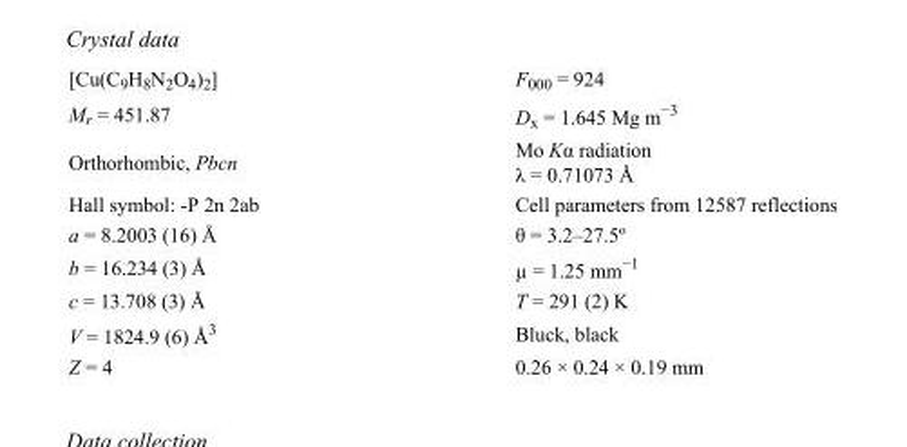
<table><tbody><tr><td>[Cu(C<sub>9</sub>H<sub>8</sub>N<sub>2</sub>O<sub>4</sub>)<sub>2</sub>]</td><td>F<sub>000</sub> = 924</td></tr><tr><td>M<sub>r</sub> = 451.87</td><td>D<sub>x</sub> = 1.645 Mg m<sup>−3</sup></td></tr><tr><td>Orthorhombic, Pbcn</td><td>Mo Kα radiation λ = 0.71073 Å</td></tr><tr><td>Hall symbol: -P 2n 2ab</td><td>Cell parameters from 12587 reflections</td></tr><tr><td>a = 8.2003 (16) Å</td><td>θ = 3.2–27.5º</td></tr><tr><td>b = 16.234 (3) Å</td><td>µ = 1.25 mm<sup>−1</sup></td></tr><tr><td>c = 13.708 (3) Å</td><td>T = 291 (2) K</td></tr><tr><td>V = 1824.9 (6) Å<sup>3</sup></td><td>Bluck, black</td></tr><tr><td>Z = 4</td><td>0.26 × 0.24 × 0.19 mm</td></tr></tbody></table>